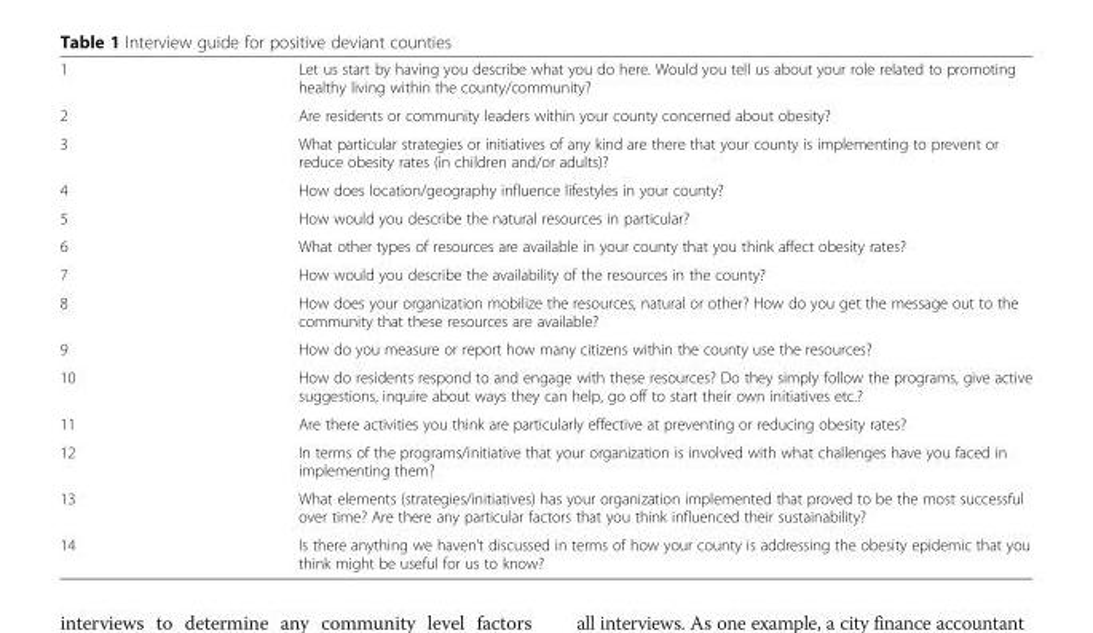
<table><tbody><tr><td>1</td><td>Let us start by having you describe what you do here. Would you tell us about your role related to promoting healthy living within the county/community?</td></tr><tr><td>2</td><td>Are residents or community leaders within your county concerned about obesity?</td></tr><tr><td>3</td><td>What particular strategies or initiatives of any kind are there that your county is implementing to prevent or reduce obesity rates (in children and/or adults)?</td></tr><tr><td>4</td><td>How does location/geography influence lifestyles in your county?</td></tr><tr><td>5</td><td>How would you describe the natural resources in particular?</td></tr><tr><td>6</td><td>What other types of resources are available in your county that you think affect obesity rates?</td></tr><tr><td>7</td><td>How would you describe the availability of the resources in the county?</td></tr><tr><td>8</td><td>How does your organization mobilize the resources, natural or other? How do you get the message out to the community that these resources are available?</td></tr><tr><td>9</td><td>How do you measure or report how many citizens within the county use the resources?</td></tr><tr><td>10</td><td>How do residents respond to and engage with these resources? Do they simply follow the programs, give active suggestions, inquire about ways they can help, go off to start their own initiatives etc.?</td></tr><tr><td>11</td><td>Are there activities you think are particularly effective at preventing or reducing obesity rates?</td></tr><tr><td>12</td><td>In terms of the programs/initiative that your organization is involved with what challenges have you faced in implementing them?</td></tr><tr><td>13</td><td>What elements (strategies/initiatives) has your organization implemented that proved to be the most successful over time? Are there any particular factors that you think influenced their sustainability?</td></tr><tr><td>14</td><td>Is there anything we haven’t discussed in terms of how your county is addressing the obesity epidemic that you think might be useful for us to know?</td></tr></tbody></table>